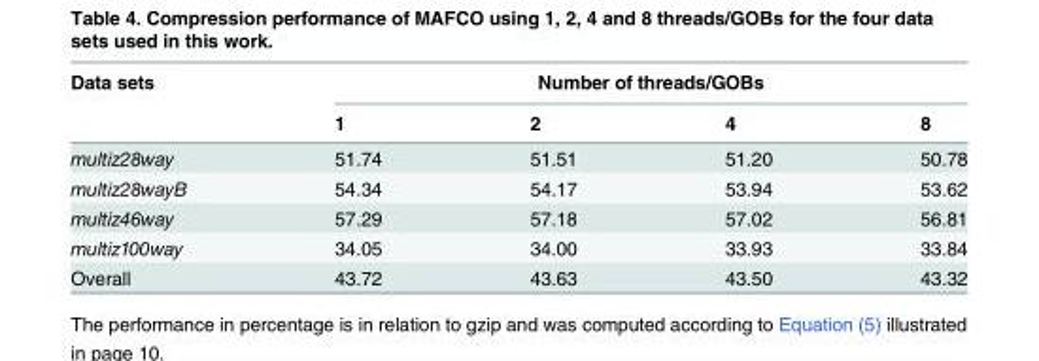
<table><thead><tr><td rowspan="2">Data sets</td><td colspan="4">Number of threads/GOBs</td></tr><tr><td>1</td><td>2</td><td>4</td><td>8</td></tr></thead><tbody><tr><td>multiz28way</td><td>51.74</td><td>51.51</td><td>51.20</td><td>50.78</td></tr><tr><td>multiz28wayB</td><td>54.34</td><td>54.17</td><td>53.94</td><td>53.62</td></tr><tr><td>multiz46way</td><td>57.29</td><td>57.18</td><td>57.02</td><td>56.81</td></tr><tr><td>multiz100way</td><td>34.05</td><td>34.00</td><td>33.93</td><td>33.84</td></tr><tr><td>Overall</td><td>43.72</td><td>43.63</td><td>43.50</td><td>43.32</td></tr></tbody></table>